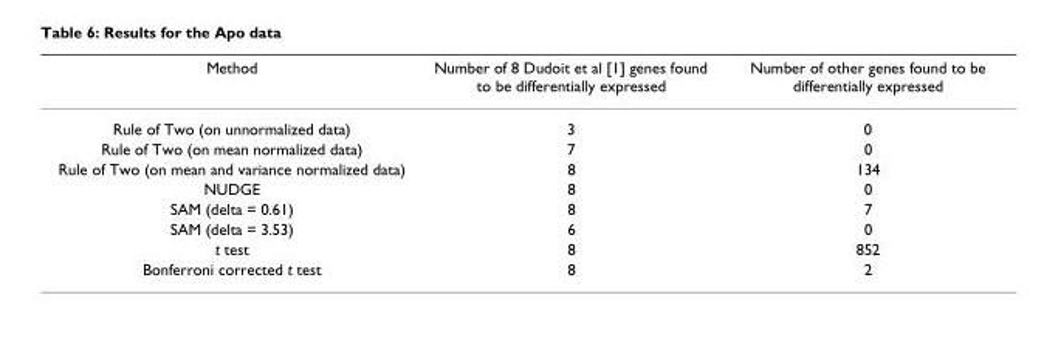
<table><thead><tr><td>Method</td><td>Number of 8 Dudoit et al [1] genes found to be differentially expressed</td><td>Number of other genes found to be differentially expressed</td></tr></thead><tbody><tr><td>Rule of Two (on unnormalized data)</td><td>3</td><td>0</td></tr><tr><td>Rule of Two (on mean normalized data)</td><td>7</td><td>0</td></tr><tr><td>Rule of Two (on mean and variance normalized data)</td><td>8</td><td>134</td></tr><tr><td>NUDGE</td><td>8</td><td>0</td></tr><tr><td>SAM (delta = 0.61)</td><td>8</td><td>7</td></tr><tr><td>SAM (delta = 3.53)</td><td>6</td><td>0</td></tr><tr><td>t test</td><td>8</td><td>852</td></tr><tr><td>Bonferroni corrected t test</td><td>8</td><td>2</td></tr></tbody></table>